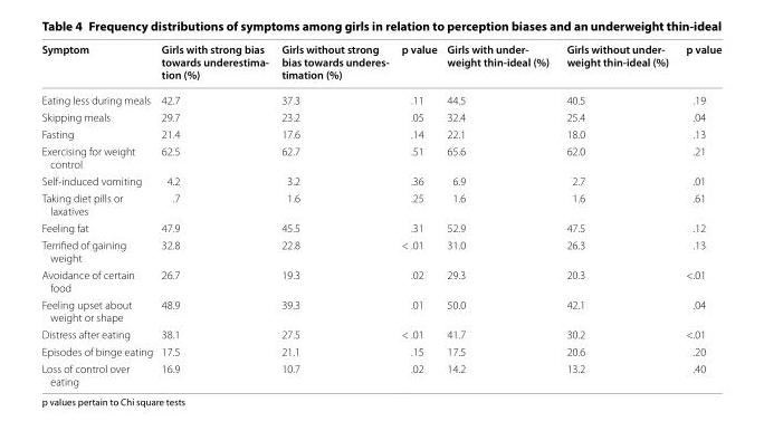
<table><thead><tr><td>Symptom</td><td>Girls with strong bias towards underestima- tion (%)</td><td>Girls without strong bias towards underes- timation (%)</td><td>p value</td><td>Girls with under- weight thin-ideal (%)</td><td>Girls without under- weight thin-ideal (%)</td><td>p value</td></tr></thead><tbody><tr><td>Eating less during meals</td><td>42.7</td><td>37.3</td><td>.11</td><td>44.5</td><td>40.5</td><td>.19</td></tr><tr><td>Skipping meals</td><td>29.7</td><td>23.2</td><td>.05</td><td>32.4</td><td>25.4</td><td>.04</td></tr><tr><td>Fasting</td><td>21.4</td><td>17.6</td><td>.14</td><td>22.1</td><td>18.0</td><td>.13</td></tr><tr><td>Exercising for weight control</td><td>62.5</td><td>62.7</td><td>.51</td><td>65.6</td><td>62.0</td><td>.21</td></tr><tr><td>Self-induced vomiting</td><td>4.2</td><td>3.2</td><td>.36</td><td>6.9</td><td>2.7</td><td>.01</td></tr><tr><td>Taking diet pills or laxatives</td><td>.7</td><td>1.6</td><td>.25</td><td>1.6</td><td>1.6</td><td>.61</td></tr><tr><td>Feeling fat</td><td>47.9</td><td>45.5</td><td>.31</td><td>52.9</td><td>47.5</td><td>.12</td></tr><tr><td>Terrified of gaining weight</td><td>32.8</td><td>22.8</td><td>&lt; .01</td><td>31.0</td><td>26.3</td><td>.13</td></tr><tr><td>Avoidance of certain food</td><td>26.7</td><td>19.3</td><td>.02</td><td>29.3</td><td>20.3</td><td>&lt;.01</td></tr><tr><td>Feeling upset about weight or shape</td><td>48.9</td><td>39.3</td><td>.01</td><td>50.0</td><td>42.1</td><td>.04</td></tr><tr><td>Distress after eating</td><td>38.1</td><td>27.5</td><td>&lt; .01</td><td>41.7</td><td>30.2</td><td>&lt;.01</td></tr><tr><td>Episodes of binge eating</td><td>17.5</td><td>21.1</td><td>.15</td><td>17.5</td><td>20.6</td><td>.20</td></tr><tr><td>Loss of control over eating</td><td>16.9</td><td>10.7</td><td>.02</td><td>14.2</td><td>13.2</td><td>.40</td></tr></tbody></table>